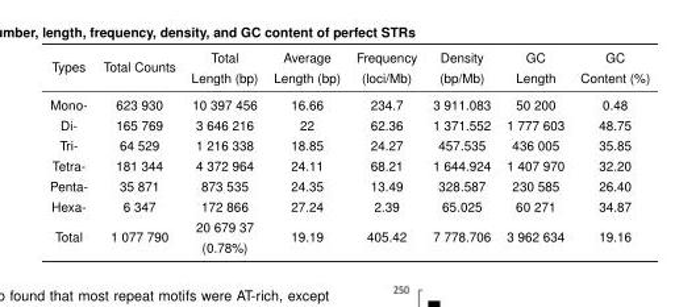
<table><thead><tr><td>Types</td><td>Total Counts</td><td>Total Length (bp)</td><td>Average Length (bp)</td><td>Frequency (loci/Mb)</td><td>Density (bp/Mb)</td><td>GC Length</td><td>GC Content (%)</td></tr></thead><tbody><tr><td>Mono-</td><td>623 930</td><td>10 397 456</td><td>16.66</td><td>234.7</td><td>3 911.083</td><td>50 200</td><td>0.48</td></tr><tr><td>Di-</td><td>165 769</td><td>3 646 216</td><td>22</td><td>62.36</td><td>1 371.552</td><td>1 777 603</td><td>48.75</td></tr><tr><td>Tri-</td><td>64 529</td><td>1 216 338</td><td>18.85</td><td>24.27</td><td>457.535</td><td>436 005</td><td>35.85</td></tr><tr><td>Tetra-</td><td>181 344</td><td>4 372 964</td><td>24.11</td><td>68.21</td><td>1 644.924</td><td>1 407 970</td><td>32.20</td></tr><tr><td>Penta-</td><td>35 871</td><td>873 535</td><td>24.35</td><td>13.49</td><td>328.587</td><td>230 585</td><td>26.40</td></tr><tr><td>Hexa-</td><td>6 347</td><td>172 866</td><td>27.24</td><td>2.39</td><td>65.025</td><td>60 271</td><td>34.87</td></tr><tr><td>Total</td><td>1 077 790</td><td>20 679 37 (0.78%)</td><td>19.19</td><td>405.42</td><td>7 778.706</td><td>3 962 634</td><td>19.16</td></tr></tbody></table>